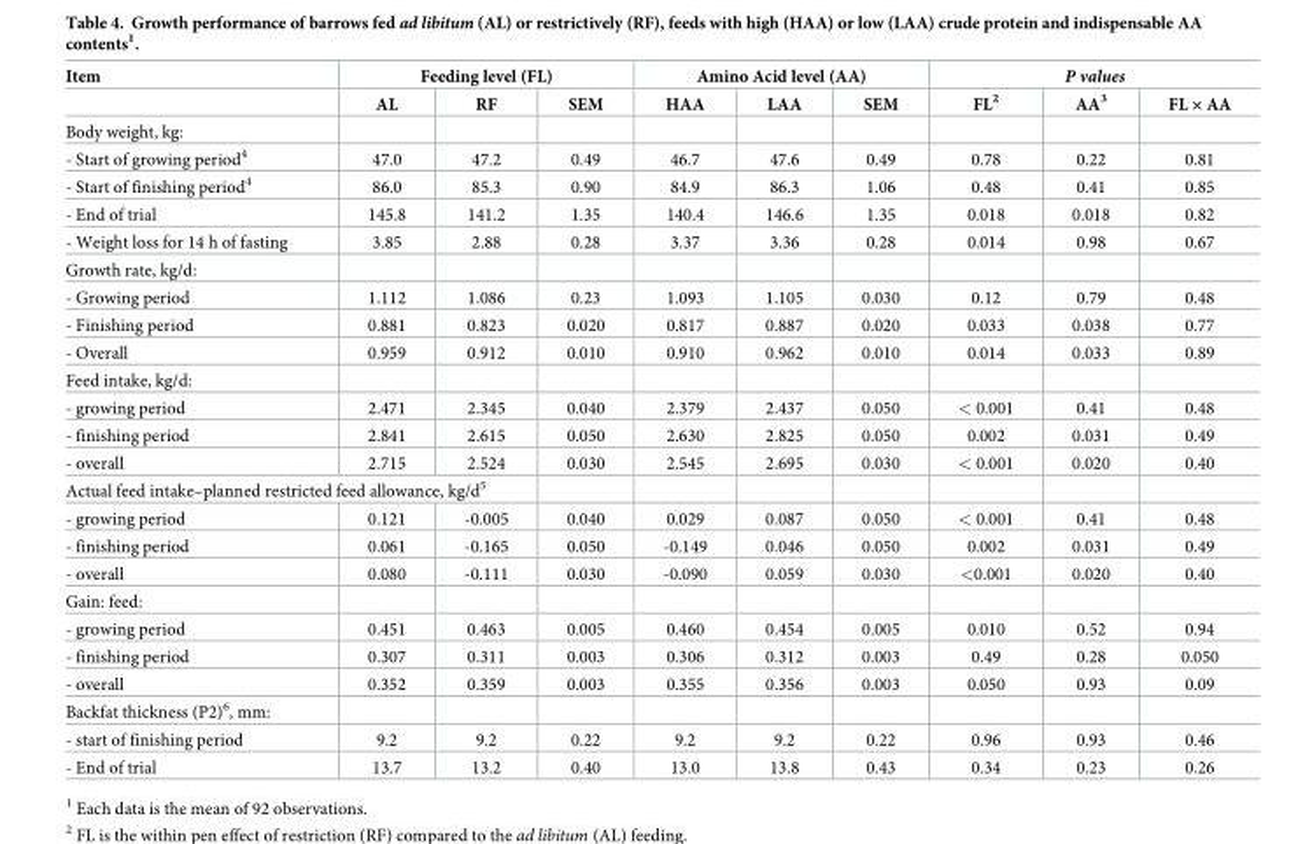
<table><thead><tr><td rowspan="2">Item</td><td colspan="3">Feeding level (FL)</td><td colspan="3">Amino Acid level (AA)</td><td colspan="3">P values</td></tr><tr><td>AL</td><td>RF</td><td>SEM</td><td>HAA</td><td>LAA</td><td>SEM</td><td>FL<sup>2</sup></td><td>AA<sup>3</sup></td><td>FL × AA</td></tr></thead><tbody><tr><td colspan="10">Body weight, kg:</td></tr><tr><td>- Start of growing period<sup>4</sup></td><td>47.0</td><td>47.2</td><td>0.49</td><td>46.7</td><td>47.6</td><td>0.49</td><td>0.78</td><td>0.22</td><td>0.81</td></tr><tr><td>- Start of finishing period<sup>4</sup></td><td>86.0</td><td>85.3</td><td>0.90</td><td>84.9</td><td>86.3</td><td>1.06</td><td>0.48</td><td>0.41</td><td>0.85</td></tr><tr><td>- End of trial</td><td>145.8</td><td>141.2</td><td>1.35</td><td>140.4</td><td>146.6</td><td>1.35</td><td>0.018</td><td>0.018</td><td>0.82</td></tr><tr><td>- Weight loss for 14 h of fasting</td><td>3.85</td><td>2.88</td><td>0.28</td><td>3.37</td><td>3.36</td><td>0.28</td><td>0.014</td><td>0.98</td><td>0.67</td></tr><tr><td colspan="10">Growth rate, kg/d:</td></tr><tr><td>- Growing period</td><td>1.112</td><td>1.086</td><td>0.23</td><td>1.093</td><td>1.105</td><td>0.030</td><td>0.12</td><td>0.79</td><td>0.48</td></tr><tr><td>- Finishing period</td><td>0.881</td><td>0.823</td><td>0.020</td><td>0.817</td><td>0.887</td><td>0.020</td><td>0.033</td><td>0.038</td><td>0.77</td></tr><tr><td>- Overall</td><td>0.959</td><td>0.912</td><td>0.010</td><td>0.910</td><td>0.962</td><td>0.010</td><td>0.014</td><td>0.033</td><td>0.89</td></tr><tr><td colspan="10">Feed intake, kg/d:</td></tr><tr><td>- growing period</td><td>2.471</td><td>2.345</td><td>0.040</td><td>2.379</td><td>2.437</td><td>0.050</td><td>&lt; 0.001</td><td>0.41</td><td>0.48</td></tr><tr><td>- finishing period</td><td>2.841</td><td>2.615</td><td>0.050</td><td>2.630</td><td>2.825</td><td>0.050</td><td>0.002</td><td>0.031</td><td>0.49</td></tr><tr><td>- overall</td><td>2.715</td><td>2.524</td><td>0.030</td><td>2.545</td><td>2.695</td><td>0.030</td><td>&lt; 0.001</td><td>0.020</td><td>0.40</td></tr><tr><td colspan="10">Actual feed intake–planned restricted feed allowance, kg/d<sup>5</sup></td></tr><tr><td>- growing period</td><td>0.121</td><td>-0.005</td><td>0.040</td><td>0.029</td><td>0.087</td><td>0.050</td><td>&lt; 0.001</td><td>0.41</td><td>0.48</td></tr><tr><td>- finishing period</td><td>0.061</td><td>-0.165</td><td>0.050</td><td>-0.149</td><td>0.046</td><td>0.050</td><td>0.002</td><td>0.031</td><td>0.49</td></tr><tr><td>- overall</td><td>0.080</td><td>-0.111</td><td>0.030</td><td>-0.090</td><td>0.059</td><td>0.030</td><td>&lt;0.001</td><td>0.020</td><td>0.40</td></tr><tr><td colspan="10">Gain: feed:</td></tr><tr><td>- growing period</td><td>0.451</td><td>0.463</td><td>0.005</td><td>0.460</td><td>0.454</td><td>0.005</td><td>0.010</td><td>0.52</td><td>0.94</td></tr><tr><td>- finishing period</td><td>0.307</td><td>0.311</td><td>0.003</td><td>0.306</td><td>0.312</td><td>0.003</td><td>0.49</td><td>0.28</td><td>0.050</td></tr><tr><td>- overall</td><td>0.352</td><td>0.359</td><td>0.003</td><td>0.355</td><td>0.356</td><td>0.003</td><td>0.050</td><td>0.93</td><td>0.09</td></tr><tr><td colspan="10">Backfat thickness (P2)<sup>6</sup>, mm:</td></tr><tr><td>- start of finishing period</td><td>9.2</td><td>9.2</td><td>0.22</td><td>9.2</td><td>9.2</td><td>0.22</td><td>0.96</td><td>0.93</td><td>0.46</td></tr><tr><td>- End of trial</td><td>13.7</td><td>13.2</td><td>0.40</td><td>13.0</td><td>13.8</td><td>0.43</td><td>0.34</td><td>0.23</td><td>0.26</td></tr></tbody></table>